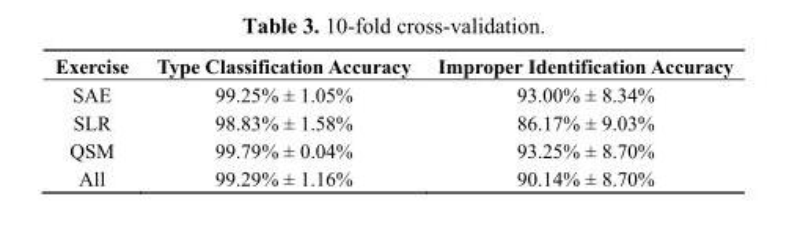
<table><thead><tr><td>Exercise</td><td>Type Classification Accuracy</td><td>Improper Identification Accuracy</td></tr></thead><tbody><tr><td>SAE</td><td>99.25% ± 1.05%</td><td>93.00% ± 8.34%</td></tr><tr><td>SLR</td><td>98.83% ± 1.58%</td><td>86.17% ± 9.03%</td></tr><tr><td>QSM</td><td>99.79% ± 0.04%</td><td>93.25% ± 8.70%</td></tr><tr><td>All</td><td>99.29% ± 1.16%</td><td>90.14% ± 8.70%</td></tr></tbody></table>